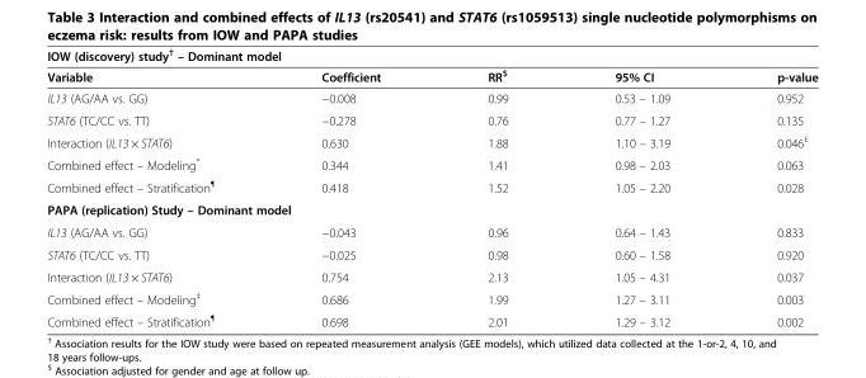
<table><thead><tr><td colspan="5">IOW (discovery) study<sup>†</sup> – Dominant model</td></tr><tr><td>Variable</td><td>Coefficient</td><td>RR<sup>$</sup></td><td>95% CI</td><td>p-value</td></tr></thead><tbody><tr><td>IL13 (AG/AA vs. GG)</td><td>−0.008</td><td>0.99</td><td>0.53 – 1.09</td><td>0.952</td></tr><tr><td>STAT6 (TC/CC vs. TT)</td><td>−0.278</td><td>0.76</td><td>0.77 – 1.27</td><td>0.135</td></tr><tr><td>Interaction (IL13 × STAT6)</td><td>0.630</td><td>1.88</td><td>1.10 – 3.19</td><td>0.046<sup>£</sup></td></tr><tr><td>Combined effect – Modeling*</td><td>0.344</td><td>1.41</td><td>0.98 – 2.03</td><td>0.063</td></tr><tr><td>Combined effect – Stratification<sup>¶</sup></td><td>0.418</td><td>1.52</td><td>1.05 – 2.20</td><td>0.028</td></tr><tr><td colspan="5">PAPA (replication) Study – Dominant model</td></tr><tr><td>IL13 (AG/AA vs. GG)</td><td>−0.043</td><td>0.96</td><td>0.64 – 1.43</td><td>0.833</td></tr><tr><td>STAT6 (TC/CC vs. TT)</td><td>−0.025</td><td>0.98</td><td>0.60 – 1.58</td><td>0.920</td></tr><tr><td>Interaction (IL13 × STAT6)</td><td>0.754</td><td>2.13</td><td>1.05 – 4.31</td><td>0.037</td></tr><tr><td>Combined effect – Modeling<sup>‡</sup></td><td>0.686</td><td>1.99</td><td>1.27 – 3.11</td><td>0.003</td></tr><tr><td>Combined effect – Stratification<sup>¶</sup></td><td>0.698</td><td>2.01</td><td>1.29 – 3.12</td><td>0.002</td></tr></tbody></table>